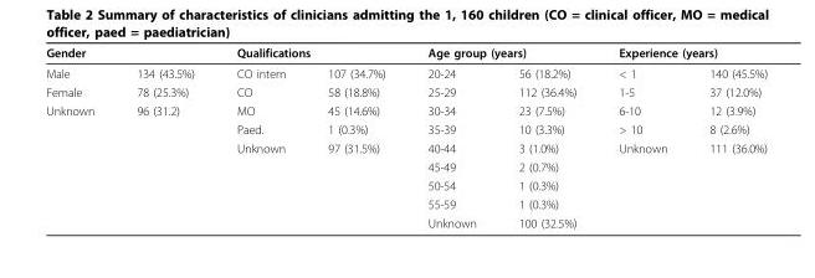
<table><thead><tr><td colspan="2">Gender</td><td colspan="2">Qualifications</td><td colspan="2">Age group (years)</td><td colspan="2">Experience (years)</td></tr><tr><td>Male</td><td>134 (43.5%)</td><td>CO intern</td><td>107 (34.7%)</td><td>20-24</td><td>56 (18.2%)</td><td>&lt; 1</td><td>140 (45.5%)</td></tr></thead><tbody><tr><td>Female</td><td>78 (25.3%)</td><td>CO</td><td>58 (18.8%)</td><td>25-29</td><td>112 (36.4%)</td><td>1-5</td><td>37 (12.0%)</td></tr><tr><td rowspan="7">Unknown</td><td>96 (31.2)</td><td>MO</td><td>45 (14.6%)</td><td>30-34</td><td>23 (7.5%)</td><td>6-10</td><td>12 (3.9%)</td></tr><tr><td></td><td>Paed.</td><td>1 (0.3%)</td><td>35-39</td><td>10 (3.3%)</td><td>&gt; 10</td><td>8 (2.6%)</td></tr><tr><td></td><td>Unknown</td><td>97 (31.5%)</td><td>40-44</td><td>3 (1.0%)</td><td>Unknown</td><td>111 (36.0%)</td></tr><tr><td></td><td></td><td></td><td>45-49</td><td>2 (0.7%)</td><td></td><td></td></tr><tr><td></td><td></td><td></td><td>50-54</td><td>1 (0.3%)</td><td></td><td></td></tr><tr><td></td><td></td><td></td><td>55-59</td><td>1 (0.3%)</td><td></td><td></td></tr><tr><td></td><td></td><td></td><td>Unknown</td><td>100 (32.5%)</td><td></td><td></td></tr></tbody></table>